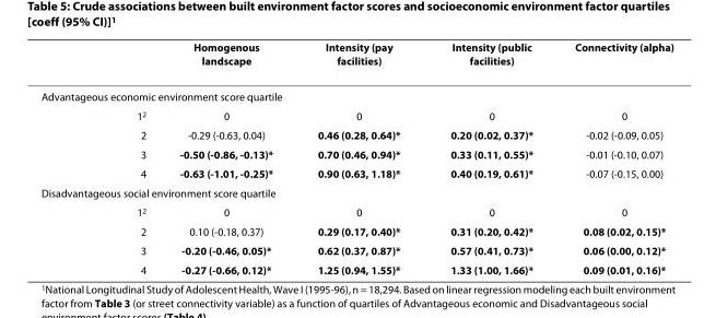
<table><thead><tr><td></td><td>Homogenous landscape</td><td>Intensity (pay facilities)</td><td>Intensity (public facilities)</td><td>Connectivity (alpha)</td></tr></thead><tbody><tr><td colspan="5">Advantageous economic environment score quartile</td></tr><tr><td>1<sup>2</sup></td><td>0</td><td>0</td><td>0</td><td>0</td></tr><tr><td>2</td><td>-0.29 (-0.63, 0.04)</td><td>0.46 (0.28, 0.64)*</td><td>0.20 (0.02, 0.37)*</td><td>-0.02 (-0.09, 0.05)</td></tr><tr><td>3</td><td>-0.50 (-0.86, -0.13)*</td><td>0.70 (0.46, 0.94)*</td><td>0.33 (0.11, 0.55)*</td><td>-0.01 (-0.10, 0.07)</td></tr><tr><td>4</td><td>-0.63 (-1.01, -0.25)*</td><td>0.90 (0.63, 1.18)*</td><td>0.40 (0.19, 0.61)*</td><td>-0.07 (-0.15, 0.00)</td></tr><tr><td colspan="5">Disadvantageous social environment score quartile</td></tr><tr><td>1<sup>2</sup></td><td>0</td><td>0</td><td>0</td><td>0</td></tr><tr><td>2</td><td>0.10 (-0.18, 0.37)</td><td>0.29 (0.17, 0.40)*</td><td>0.31 (0.20, 0.42)*</td><td>0.08 (0.02, 0.15)*</td></tr><tr><td>3</td><td>-0.20 (-0.46, 0.05)*</td><td>0.62 (0.37, 0.87)*</td><td>0.57 (0.41, 0.73)*</td><td>0.06 (0.00, 0.12)*</td></tr><tr><td>4</td><td>-0.27 (-0.66, 0.12)*</td><td>1.25 (0.94, 1.55)*</td><td>1.33 (1.00, 1.66)*</td><td>0.09 (0.01, 0.16)*</td></tr></tbody></table>